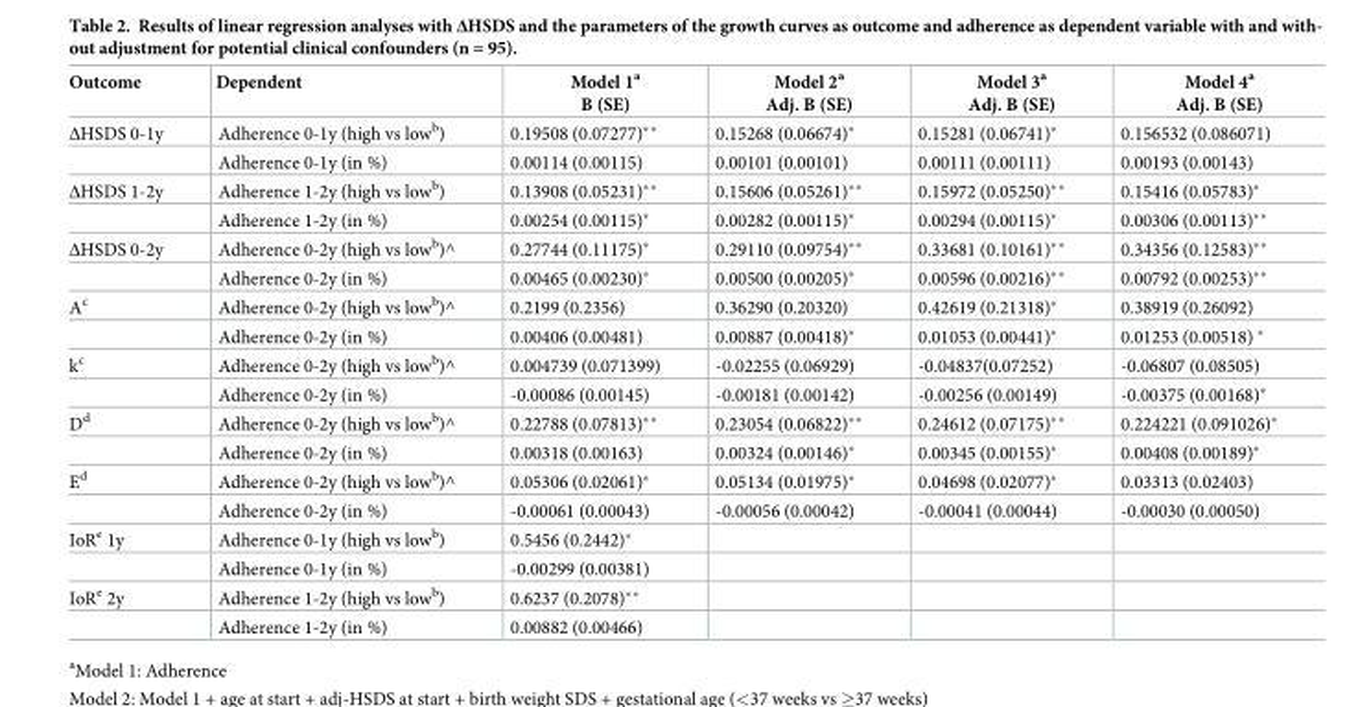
<table><thead><tr><td>Outcome</td><td>Dependent</td><td>Model 1<sup>a</sup> B (SE)</td><td>Model 2<sup>a</sup> Adj. B (SE)</td><td>Model 3<sup>a</sup> Adj. B (SE)</td><td>Model 4<sup>a</sup> Adj. B (SE)</td></tr></thead><tbody><tr><td rowspan="2">ΔHSDS 0-1y</td><td>Adherence 0-1y (high vs low<sup>b</sup>)</td><td>0.19508 (0.07277)**</td><td>0.15268 (0.06674)*</td><td>0.15281 (0.06741)*</td><td>0.156532 (0.086071)</td></tr><tr><td>Adherence 0-1y (in %)</td><td>0.00114 (0.00115)</td><td>0.00101 (0.00101)</td><td>0.00111 (0.00111)</td><td>0.00193 (0.00143)</td></tr><tr><td rowspan="2">ΔHSDS 1-2y</td><td>Adherence 1-2y (high vs low<sup>b</sup>)</td><td>0.13908 (0.05231)**</td><td>0.15606 (0.05261)**</td><td>0.15972 (0.05250)**</td><td>0.15416 (0.05783)*</td></tr><tr><td>Adherence 1-2y (in %)</td><td>0.00254 (0.00115)*</td><td>0.00282 (0.00115)*</td><td>0.00294 (0.00115)*</td><td>0.00306 (0.00113)**</td></tr><tr><td rowspan="2">ΔHSDS 0-2y</td><td>Adherence 0-2y (high vs low<sup>b</sup>)^</td><td>0.27744 (0.11175)*</td><td>0.29110 (0.09754)**</td><td>0.33681 (0.10161)**</td><td>0.34356 (0.12583)**</td></tr><tr><td>Adherence 0-2y (in %)</td><td>0.00465 (0.00230)*</td><td>0.00500 (0.00205)*</td><td>0.00596 (0.00216)**</td><td>0.00792 (0.00253)**</td></tr><tr><td rowspan="2">A<sup>c</sup></td><td>Adherence 0-2y (high vs low<sup>b</sup>)^</td><td>0.2199 (0.2356)</td><td>0.36290 (0.20320)</td><td>0.42619 (0.21318)*</td><td>0.38919 (0.26092)</td></tr><tr><td>Adherence 0-2y (in %)</td><td>0.00406 (0.00481)</td><td>0.00887 (0.00418)*</td><td>0.01053 (0.00441)*</td><td>0.01253 (0.00518) *</td></tr><tr><td rowspan="2">k<sup>c</sup></td><td>Adherence 0-2y (high vs low<sup>b</sup>)^</td><td>0.004739 (0.071399)</td><td>-0.02255 (0.06929)</td><td>-0.04837(0.07252)</td><td>-0.06807 (0.08505)</td></tr><tr><td>Adherence 0-2y (in %)</td><td>-0.00086 (0.00145)</td><td>-0.00181 (0.00142)</td><td>-0.00256 (0.00149)</td><td>-0.00375 (0.00168)*</td></tr><tr><td rowspan="2">D<sup>d</sup></td><td>Adherence 0-2y (high vs low<sup>b</sup>)^</td><td>0.22788 (0.07813)**</td><td>0.23054 (0.06822)**</td><td>0.24612 (0.07175)**</td><td>0.224221 (0.091026)*</td></tr><tr><td>Adherence 0-2y (in %)</td><td>0.00318 (0.00163)</td><td>0.00324 (0.00146)*</td><td>0.00345 (0.00155)*</td><td>0.00408 (0.00189)*</td></tr><tr><td rowspan="2">E<sup>d</sup></td><td>Adherence 0-2y (high vs low<sup>b</sup>)^</td><td>0.05306 (0.02061)*</td><td>0.05134 (0.01975)*</td><td>0.04698 (0.02077)*</td><td>0.03313 (0.02403)</td></tr><tr><td>Adherence 0-2y (in %)</td><td>-0.00061 (0.00043)</td><td>-0.00056 (0.00042)</td><td>-0.00041 (0.00044)</td><td>-0.00030 (0.00050)</td></tr><tr><td rowspan="2">IoR<sup>e</sup> 1y</td><td>Adherence 0-1y (high vs low<sup>b</sup>)</td><td>0.5456 (0.2442)*</td><td></td><td></td><td></td></tr><tr><td>Adherence 0-1y (in %)</td><td>-0.00299 (0.00381)</td><td></td><td></td><td></td></tr><tr><td rowspan="2">IoR<sup>e</sup> 2y</td><td>Adherence 1-2y (high vs low<sup>b</sup>)</td><td>0.6237 (0.2078)**</td><td></td><td></td><td></td></tr><tr><td>Adherence 1-2y (in %)</td><td>0.00882 (0.00466)</td><td></td><td></td><td></td></tr></tbody></table>